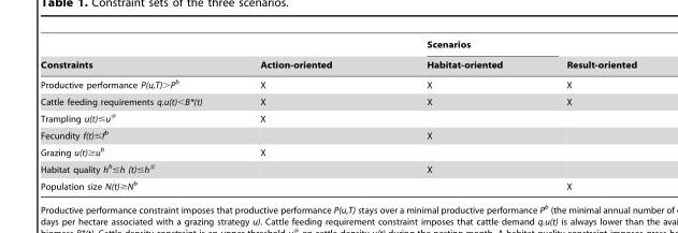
<table><thead><tr><td rowspan="2">Constraints</td><td rowspan="2">Action-oriented</td><td rowspan="2">Scenarios Habitat-oriented</td><td rowspan="2">Result-oriented</td></tr><tr></tr></thead><tbody><tr><td>Productive performance P(u,T)&gt;P<sup>b</sup></td><td>X</td><td>X</td><td>X</td></tr><tr><td>Cattle feeding requirements q.u(t)&lt;B*(t)</td><td>X</td><td>X</td><td>X</td></tr><tr><td>Trampling u(t)≤u<sup>#</sup></td><td>X</td><td></td><td></td></tr><tr><td>Fecundity f(t)≤f<sup>b</sup></td><td></td><td>X</td><td></td></tr><tr><td>Grazing u(t)≥u<sup>b</sup></td><td>X</td><td></td><td></td></tr><tr><td>Habitat quality h<sup>b</sup>≤h (t)≤h<sup>#</sup></td><td></td><td>X</td><td></td></tr><tr><td>Population size N(t)≥N<sup>b</sup></td><td></td><td></td><td>X</td></tr></tbody></table>